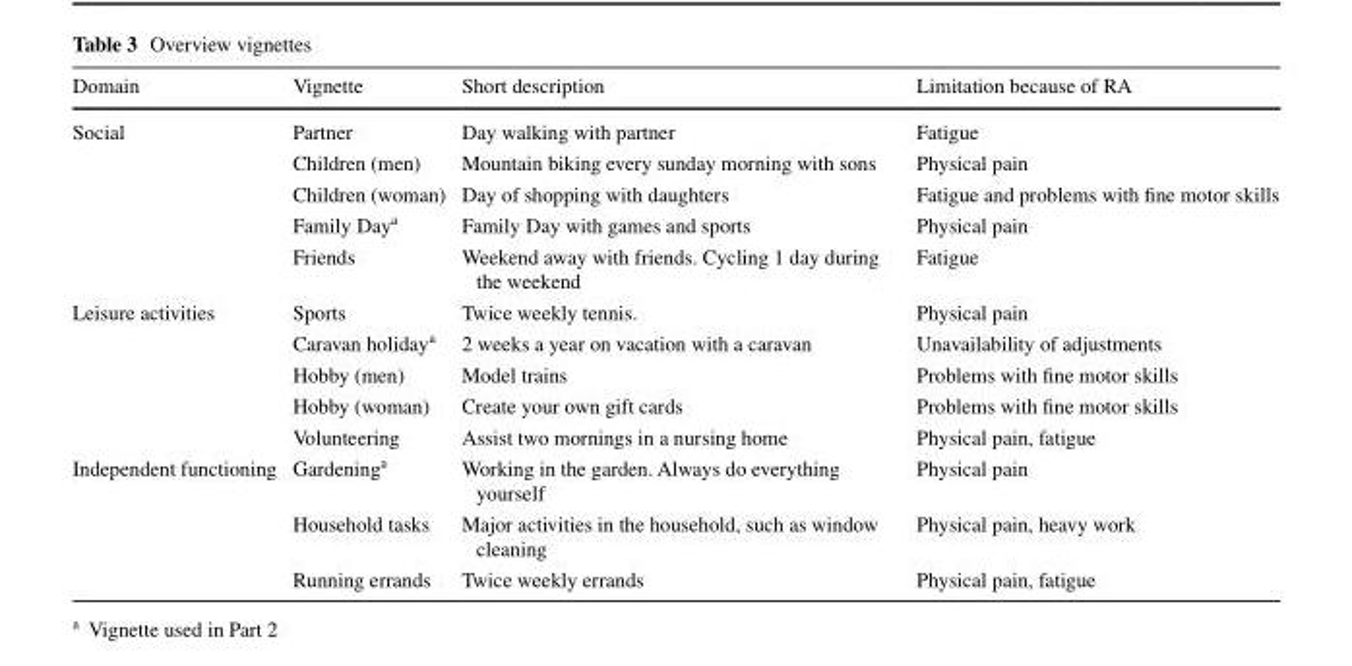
<table><thead><tr><td>Domain</td><td>Vignette</td><td>Short description</td><td>Limitation because of RA</td></tr></thead><tbody><tr><td rowspan="5">Social</td><td>Partner</td><td>Day walking with partner</td><td>Fatigue</td></tr><tr><td>Children (men)</td><td>Mountain biking every sunday morning with sons</td><td>Physical pain</td></tr><tr><td>Children (woman)</td><td>Day of shopping with daughters</td><td>Fatigue and problems with fine motor skills</td></tr><tr><td>Family Day<sup>a</sup></td><td>Family Day with games and sports</td><td>Physical pain</td></tr><tr><td>Friends</td><td>Weekend away with friends. Cycling 1 day during the weekend</td><td>Fatigue</td></tr><tr><td rowspan="5">Leisure activities</td><td>Sports</td><td>Twice weekly tennis.</td><td>Physical pain</td></tr><tr><td>Caravan holiday<sup>a</sup></td><td>2 weeks a year on vacation with a caravan</td><td>Unavailability of adjustments</td></tr><tr><td>Hobby (men)</td><td>Model trains</td><td>Problems with fine motor skills</td></tr><tr><td>Hobby (woman)</td><td>Create your own gift cards</td><td>Problems with fine motor skills</td></tr><tr><td>Volunteering</td><td>Assist two mornings in a nursing home</td><td>Physical pain, fatigue</td></tr><tr><td rowspan="3">Independent functioning</td><td>Gardening<sup>a</sup></td><td>Working in the garden. Always do everything yourself</td><td>Physical pain</td></tr><tr><td>Household tasks</td><td>Major activities in the household, such as window cleaning</td><td>Physical pain, heavy work</td></tr><tr><td>Running errands</td><td>Twice weekly errands</td><td>Physical pain, fatigue</td></tr></tbody></table>